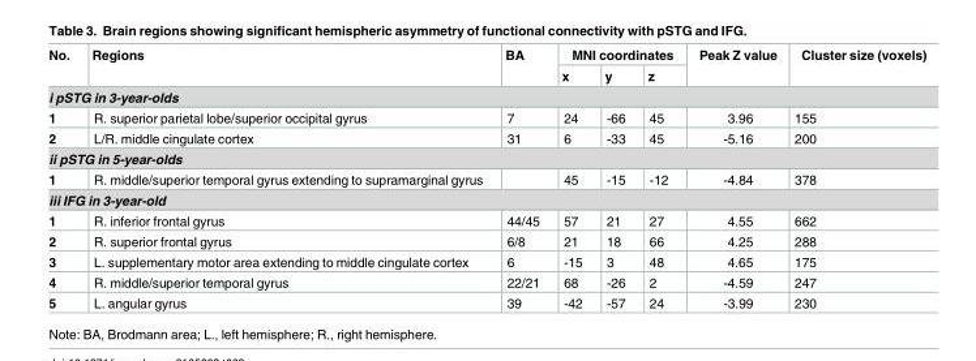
<table><thead><tr><td rowspan="2">No.</td><td rowspan="2">Regions</td><td rowspan="2">BA</td><td colspan="3">MNI coordinates</td><td rowspan="2">Peak Z value</td><td rowspan="2">Cluster size (voxels)</td></tr><tr><td>x</td><td>y</td><td>z</td></tr></thead><tbody><tr><td colspan="8">i pSTG in 3-year-olds</td></tr><tr><td>1</td><td>R. superior parietal lobe/superior occipital gyrus</td><td>7</td><td>24</td><td>-66</td><td>45</td><td>3.96</td><td>155</td></tr><tr><td>2</td><td>L/R. middle cingulate cortex</td><td>31</td><td>6</td><td>-33</td><td>45</td><td>-5.16</td><td>200</td></tr><tr><td colspan="8">ii pSTG in 5-year-olds</td></tr><tr><td>1</td><td>R. middle/superior temporal gyrus extending to supramarginal gyrus</td><td></td><td>45</td><td>-15</td><td>-12</td><td>-4.84</td><td>378</td></tr><tr><td colspan="8">iii IFG in 3-year-old</td></tr><tr><td>1</td><td>R. inferior frontal gyrus</td><td>44/45</td><td>57</td><td>21</td><td>27</td><td>4.55</td><td>662</td></tr><tr><td>2</td><td>R. superior frontal gyrus</td><td>6/8</td><td>21</td><td>18</td><td>66</td><td>4.25</td><td>288</td></tr><tr><td>3</td><td>L. supplementary motor area extending to middle cingulate cortex</td><td>6</td><td>-15</td><td>3</td><td>48</td><td>4.65</td><td>175</td></tr><tr><td>4</td><td>R. middle/superior temporal gyrus</td><td>22/21</td><td>68</td><td>-26</td><td>2</td><td>-4.59</td><td>247</td></tr><tr><td>5</td><td>L. angular gyrus</td><td>39</td><td>-42</td><td>-57</td><td>24</td><td>-3.99</td><td>230</td></tr></tbody></table>